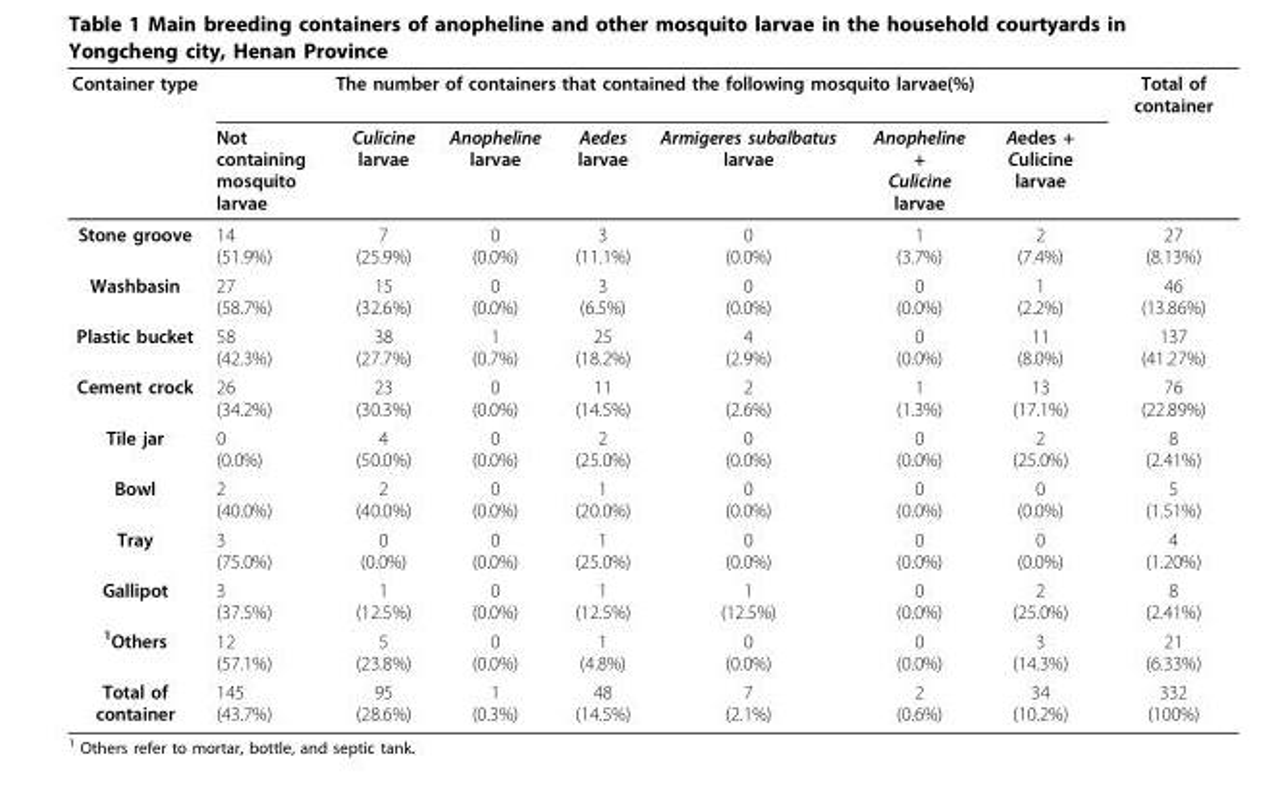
<table><thead><tr><td rowspan="2">Container type</td><td colspan="7">The number of containers that contained the following mosquito larvae(%)</td><td rowspan="2">Total of container</td></tr><tr><td>Not containing mosquito larvae</td><td>Culicine larvae</td><td>Anopheline larvae</td><td>Aedes larvae</td><td>Armigeres subalbatus larvae</td><td>Anopheline + Culicine larvae</td><td>Aedes + Culicine larvae</td></tr></thead><tbody><tr><td>Stone groove</td><td>14 (51.9%)</td><td>7 (25.9%)</td><td>0 (0.0%)</td><td>3 (11.1%)</td><td>0 (0.0%)</td><td>1 (3.7%)</td><td>2 (7.4%)</td><td>27 (8.13%)</td></tr><tr><td>Washbasin</td><td>27 (58.7%)</td><td>15 (32.6%)</td><td>0 (0.0%)</td><td>3 (6.5%)</td><td>0 (0.0%)</td><td>0 (0.0%)</td><td>1 (2.2%)</td><td>46 (13.86%)</td></tr><tr><td>Plastic bucket</td><td>58 (42.3%)</td><td>38 (27.7%)</td><td>1 (0.7%)</td><td>25 (18.2%)</td><td>4 (2.9%)</td><td>0 (0.0%)</td><td>11 (8.0%)</td><td>137 (41.27%)</td></tr><tr><td>Cement crock</td><td>26 (34.2%)</td><td>23 (30.3%)</td><td>0 (0.0%)</td><td>11 (14.5%)</td><td>2 (2.6%)</td><td>1 (1.3%)</td><td>13 (17.1%)</td><td>76 (22.89%)</td></tr><tr><td>Tile jar</td><td>0 (0.0%)</td><td>4 (50.0%)</td><td>0 (0.0%)</td><td>2 (25.0%)</td><td>0 (0.0%)</td><td>0 (0.0%)</td><td>2 (25.0%)</td><td>8 (2.41%)</td></tr><tr><td>Bowl</td><td>2 (40.0%)</td><td>2 (40.0%)</td><td>0 (0.0%)</td><td>1 (20.0%)</td><td>0 (0.0%)</td><td>0 (0.0%)</td><td>0 (0.0%)</td><td>5 (1.51%)</td></tr><tr><td>Tray</td><td>3 (75.0%)</td><td>0 (0.0%)</td><td>0 (0.0%)</td><td>1 (25.0%)</td><td>0 (0.0%)</td><td>0 (0.0%)</td><td>0 (0.0%)</td><td>4 (1.20%)</td></tr><tr><td>Gallipot</td><td>3 (37.5%)</td><td>1 (12.5%)</td><td>0 (0.0%)</td><td>1 (12.5%)</td><td>1 (12.5%)</td><td>0 (0.0%)</td><td>2 (25.0%)</td><td>8 (2.41%)</td></tr><tr><td><sup>1</sup>Others</td><td>12 (57.1%)</td><td>5 (23.8%)</td><td>0 (0.0%)</td><td>1 (4.8%)</td><td>0 (0.0%)</td><td>0 (0.0%)</td><td>3 (14.3%)</td><td>21 (6.33%)</td></tr><tr><td>Total of container</td><td>145 (43.7%)</td><td>95 (28.6%)</td><td>1 (0.3%)</td><td>48 (14.5%)</td><td>7 (2.1%)</td><td>2 (0.6%)</td><td>34 (10.2%)</td><td>332 (100%)</td></tr></tbody></table>